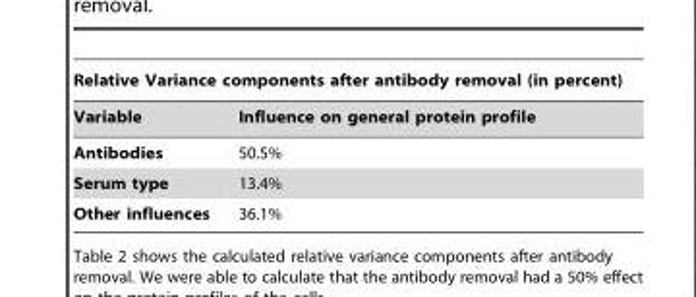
<table><thead><tr><td colspan="2">Relative Variance components after antibody removal (in percent)</td></tr><tr><td>Variable</td><td>Influence on general protein profile</td></tr></thead><tbody><tr><td>Antibodies</td><td>50.5%</td></tr><tr><td>Serum type</td><td>13.4%</td></tr><tr><td>Other influences</td><td>36.1%</td></tr></tbody></table>